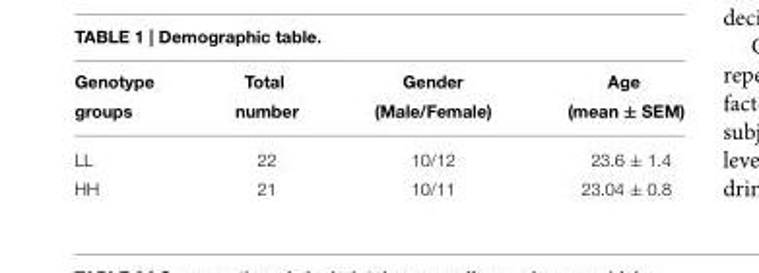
<table><thead><tr><td>Genotype groups</td><td>Total number</td><td>Gender (Male/Female)</td><td>Age (mean ± SEM)</td></tr></thead><tbody><tr><td>LL</td><td>22</td><td>10/12</td><td>23.6 ± 1.4</td></tr><tr><td>HH</td><td>21</td><td>10/11</td><td>23.04 ± 0.8</td></tr></tbody></table>